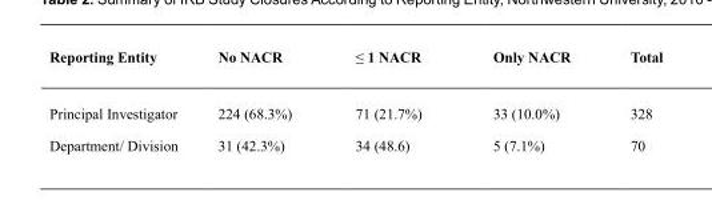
<table><thead><tr><td>Reporting Entity</td><td>No NACR</td><td>≤ 1 NACR</td><td>Only NACR</td><td>Total</td></tr></thead><tbody><tr><td>Principal Investigator</td><td>224 (68.3%)</td><td>71 (21.7%)</td><td>33 (10.0%)</td><td>328</td></tr><tr><td>Department/ Division</td><td>31 (42.3%)</td><td>34 (48.6)</td><td>5 (7.1%)</td><td>70</td></tr></tbody></table>